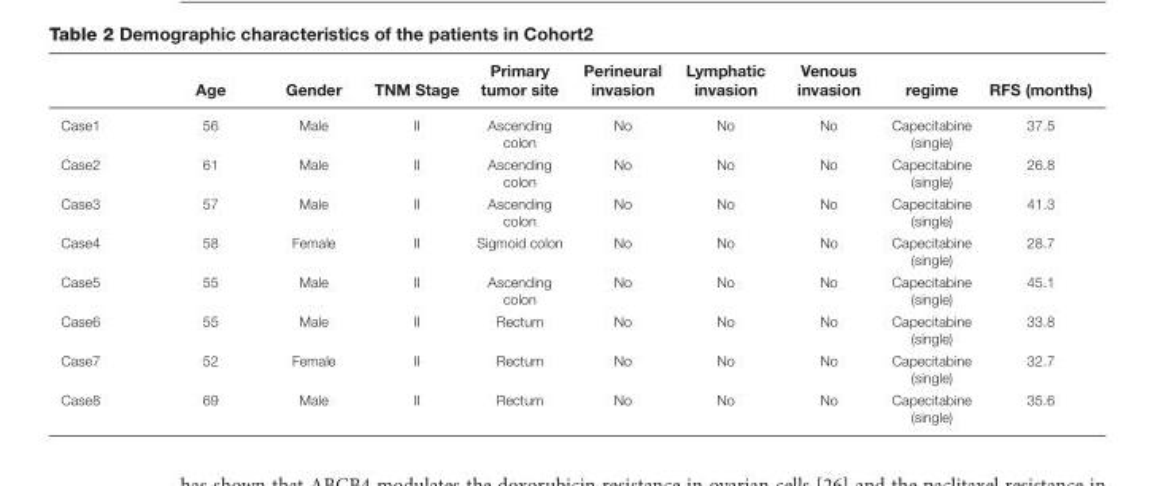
<table><thead><tr><td></td><td>Age</td><td>Gender</td><td>TNM Stage</td><td>Primary tumor site</td><td>Perineural invasion</td><td>Lymphatic invasion</td><td>Venous invasion</td><td>regime</td><td>RFS (months)</td></tr></thead><tbody><tr><td>Case1</td><td>56</td><td>Male</td><td>II</td><td>Ascending colon</td><td>No</td><td>No</td><td>No</td><td>Capecitabine (single)</td><td>37.5</td></tr><tr><td>Case2</td><td>61</td><td>Male</td><td>II</td><td>Ascending colon</td><td>No</td><td>No</td><td>No</td><td>Capecitabine (single)</td><td>26.8</td></tr><tr><td>Case3</td><td>57</td><td>Male</td><td>II</td><td>Ascending colon</td><td>No</td><td>No</td><td>No</td><td>Capecitabine (single)</td><td>41.3</td></tr><tr><td>Case4</td><td>58</td><td>Female</td><td>II</td><td>Sigmoid colon</td><td>No</td><td>No</td><td>No</td><td>Capecitabine (single)</td><td>28.7</td></tr><tr><td>Case5</td><td>55</td><td>Male</td><td>II</td><td>Ascending colon</td><td>No</td><td>No</td><td>No</td><td>Capecitabine (single)</td><td>45.1</td></tr><tr><td>Case6</td><td>55</td><td>Male</td><td>II</td><td>Rectum</td><td>No</td><td>No</td><td>No</td><td>Capecitabine (single)</td><td>33.8</td></tr><tr><td>Case7</td><td>52</td><td>Female</td><td>II</td><td>Rectum</td><td>No</td><td>No</td><td>No</td><td>Capecitabine (single)</td><td>32.7</td></tr><tr><td>Case8</td><td>69</td><td>Male</td><td>II</td><td>Rectum</td><td>No</td><td>No</td><td>No</td><td>Capecitabine (single)</td><td>35.6</td></tr></tbody></table>